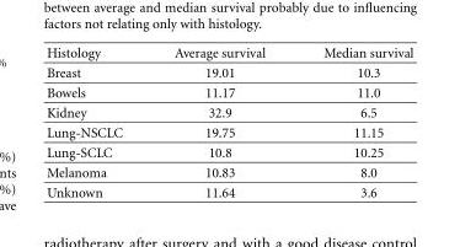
<table><thead><tr><td>Histology</td><td>Average survival</td><td>Median survival</td></tr></thead><tbody><tr><td>Breast</td><td>19.01</td><td>10.3</td></tr><tr><td>Bowels</td><td>11.17</td><td>11.0</td></tr><tr><td>Kidney</td><td>32.9</td><td>6.5</td></tr><tr><td>Lung-NSCLC</td><td>19.75</td><td>11.15</td></tr><tr><td>Lung-SCLC</td><td>10.8</td><td>10.25</td></tr><tr><td>Melanoma</td><td>10.83</td><td>8.0</td></tr><tr><td>Unknown</td><td>11.64</td><td>3.6</td></tr></tbody></table>